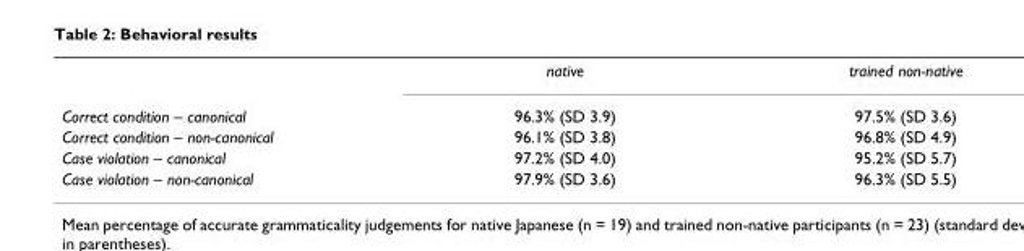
<table><thead><tr><td></td><td>native</td><td>trained non-native</td></tr></thead><tbody><tr><td>Correct condition – canonical</td><td>96.3% (SD 3.9)</td><td>97.5% (SD 3.6)</td></tr><tr><td>Correct condition – non-canonical</td><td>96.1% (SD 3.8)</td><td>96.8% (SD 4.9)</td></tr><tr><td>Case violation – canonical</td><td>97.2% (SD 4.0)</td><td>95.2% (SD 5.7)</td></tr><tr><td>Case violation – non-canonical</td><td>97.9% (SD 3.6)</td><td>96.3% (SD 5.5)</td></tr></tbody></table>